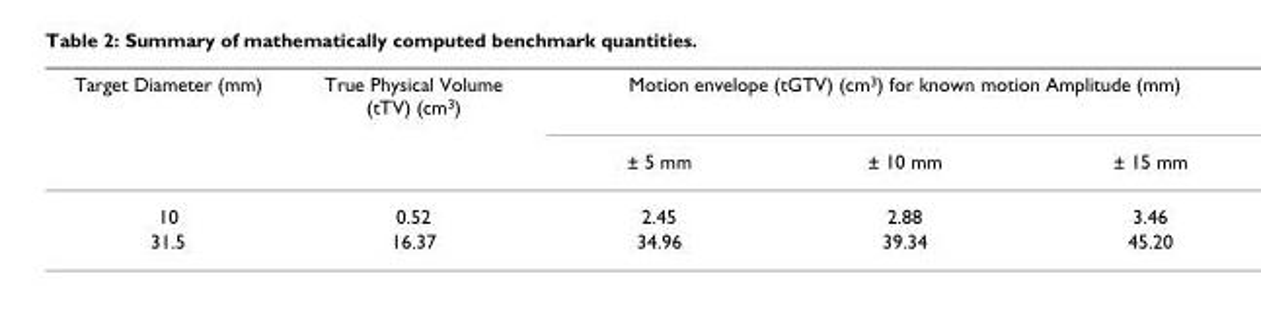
<table><thead><tr><td rowspan="2">Target Diameter (mm)</td><td rowspan="2">True Physical Volume (tTV) (cm<sup>3</sup>)</td><td colspan="3">Motion envelope (tGTV) (cm<sup>3</sup>) for known motion Amplitude (mm)</td></tr><tr><td>± 5 mm</td><td>± 10 mm</td><td>± 15 mm</td></tr></thead><tbody><tr><td>10</td><td>0.52</td><td>2.45</td><td>2.88</td><td>3.46</td></tr><tr><td>31.5</td><td>16.37</td><td>34.96</td><td>39.34</td><td>45.20</td></tr></tbody></table>